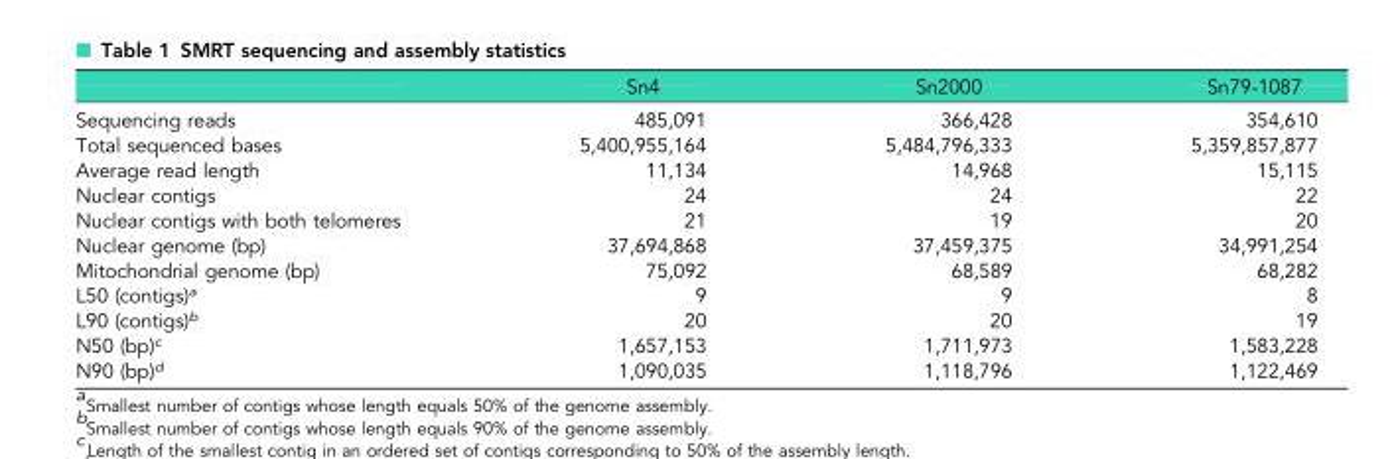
<table><thead><tr><td></td><td>Sn4</td><td>Sn2000</td><td>Sn79-1087</td></tr></thead><tbody><tr><td>Sequencing reads</td><td>485,091</td><td>366,428</td><td>354,610</td></tr><tr><td>Total sequenced bases</td><td>5,400,955,164</td><td>5,484,796,333</td><td>5,359,857,877</td></tr><tr><td>Average read length</td><td>11,134</td><td>14,968</td><td>15,115</td></tr><tr><td>Nuclear contigs</td><td>24</td><td>24</td><td>22</td></tr><tr><td>Nuclear contigs with both telomeres</td><td>21</td><td>19</td><td>20</td></tr><tr><td>Nuclear genome (bp)</td><td>37,694,868</td><td>37,459,375</td><td>34,991,254</td></tr><tr><td>Mitochondrial genome (bp)</td><td>75,092</td><td>68,589</td><td>68,282</td></tr><tr><td>L50 (contigs)<sup>a</sup></td><td>9</td><td>9</td><td>8</td></tr><tr><td>L90 (contigs)<sup>b</sup></td><td>20</td><td>20</td><td>19</td></tr><tr><td>N50 (bp)<sup>c</sup></td><td>1,657,153</td><td>1,711,973</td><td>1,583,228</td></tr><tr><td>N90 (bp)<sup>d</sup></td><td>1,090,035</td><td>1,118,796</td><td>1,122,469</td></tr></tbody></table>